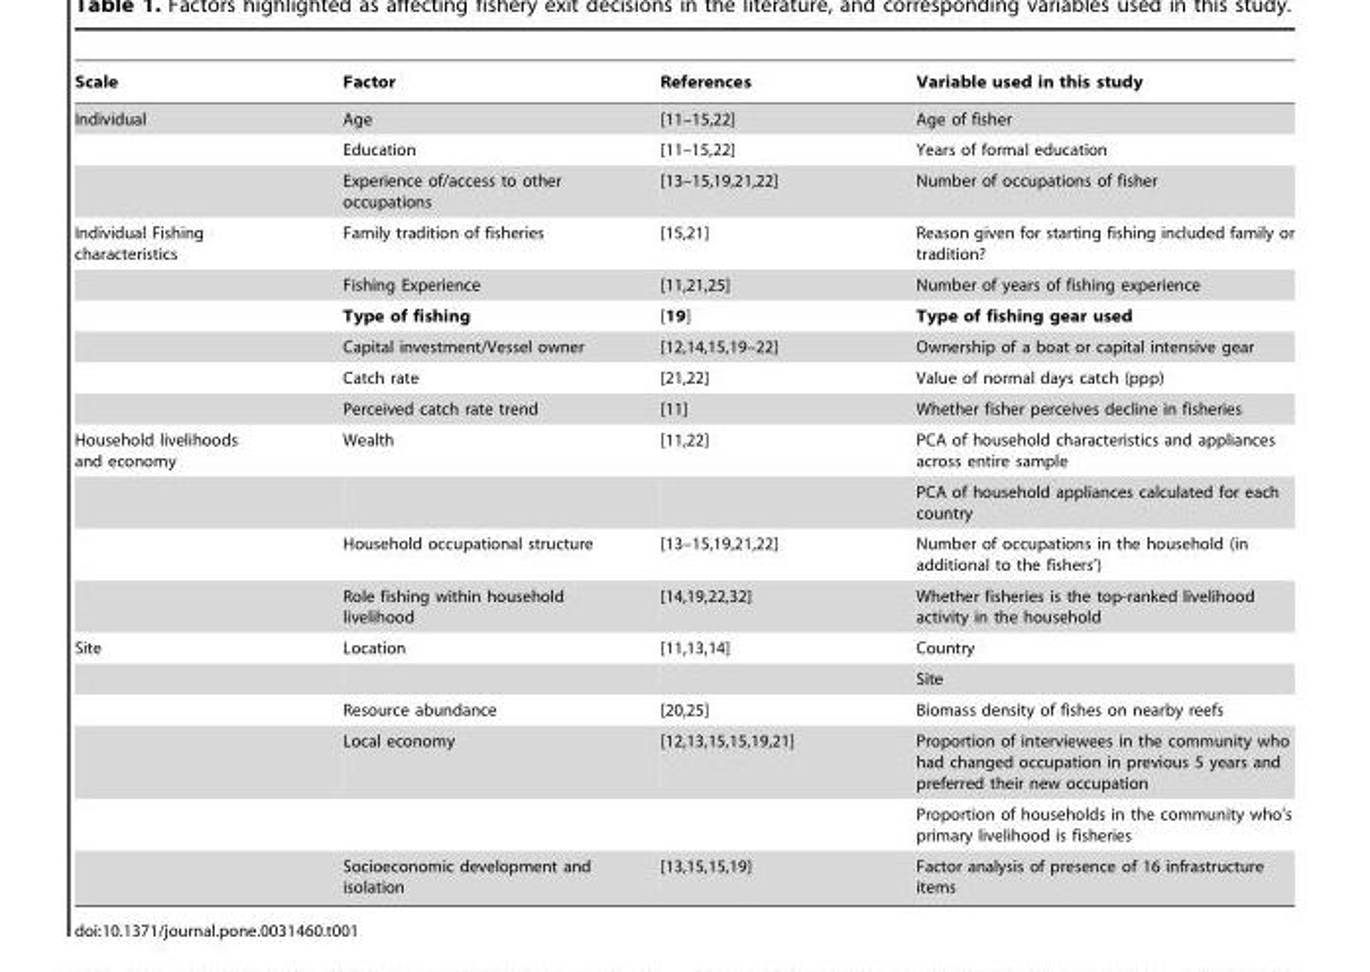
<table><thead><tr><td>Scale</td><td>Factor</td><td>References</td><td>Variable used in this study</td></tr></thead><tbody><tr><td rowspan="3">Individual</td><td>Age</td><td>[11–15,22]</td><td>Age of fisher</td></tr><tr><td>Education</td><td>[11–15,22]</td><td>Years of formal education</td></tr><tr><td>Experience of/access to other occupations</td><td>[13–15,19,21,22]</td><td>Number of occupations of fisher</td></tr><tr><td rowspan="6">Individual Fishing characteristics</td><td>Family tradition of fisheries</td><td>[15,21]</td><td>Reason given for starting fishing included family or tradition?</td></tr><tr><td>Fishing Experience</td><td>[11,21,25]</td><td>Number of years of fishing experience</td></tr><tr><td>Type of fishing</td><td>[19]</td><td>Type of fishing gear used</td></tr><tr><td>Capital investment/Vessel owner</td><td>[12,14,15,19–22]</td><td>Ownership of a boat or capital intensive gear</td></tr><tr><td>Catch rate</td><td>[21,22]</td><td>Value of normal days catch (ppp)</td></tr><tr><td>Perceived catch rate trend</td><td>[11]</td><td>Whether fisher perceives decline in fisheries</td></tr><tr><td rowspan="4">Household livelihoods and economy</td><td>Wealth</td><td>[11,22]</td><td>PCA of household characteristics and appliances across entire sample</td></tr><tr><td></td><td></td><td>PCA of household appliances calculated for each country</td></tr><tr><td>Household occupational structure</td><td>[13–15,19,21,22]</td><td>Number of occupations in the household (in additional to the fishers’)</td></tr><tr><td>Role fishing within household livelihood</td><td>[14,19,22,32]</td><td>Whether fisheries is the top-ranked livelihood activity in the household</td></tr><tr><td rowspan="6">Site</td><td>Location</td><td>[11,13,14]</td><td>Country</td></tr><tr><td></td><td></td><td>Site</td></tr><tr><td>Resource abundance</td><td>[20,25]</td><td>Biomass density of fishes on nearby reefs</td></tr><tr><td>Local economy</td><td>[12,13,15,15,19,21]</td><td>Proportion of interviewees in the community who had changed occupation in previous 5 years and preferred their new occupation</td></tr><tr><td></td><td></td><td>Proportion of households in the community who’s primary livelihood is fisheries</td></tr><tr><td>Socioeconomic development and isolation</td><td>[13,15,15,19]</td><td>Factor analysis of presence of 16 infrastructure items</td></tr></tbody></table>